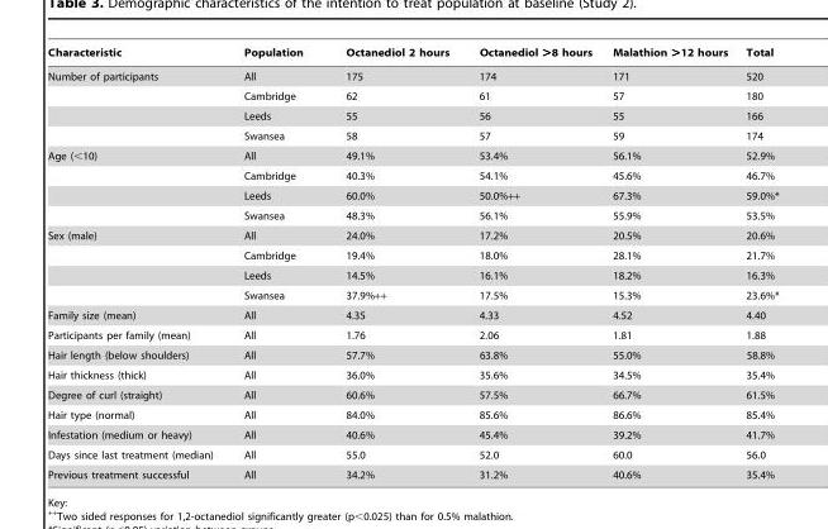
<table><thead><tr><td>Characteristic</td><td>Population</td><td>Octanediol 2 hours</td><td>Octanediol &gt;8 hours</td><td>Malathion &gt;12 hours</td><td>Total</td></tr></thead><tbody><tr><td rowspan="4">Number of participants</td><td>All</td><td>175</td><td>174</td><td>171</td><td>520</td></tr><tr><td>Cambridge</td><td>62</td><td>61</td><td>57</td><td>180</td></tr><tr><td>Leeds</td><td>55</td><td>56</td><td>55</td><td>166</td></tr><tr><td>Swansea</td><td>58</td><td>57</td><td>59</td><td>174</td></tr><tr><td rowspan="4">Age (&lt;10)</td><td>All</td><td>49.1%</td><td>53.4%</td><td>56.1%</td><td>52.9%</td></tr><tr><td>Cambridge</td><td>40.3%</td><td>54.1%</td><td>45.6%</td><td>46.7%</td></tr><tr><td>Leeds</td><td>60.0%</td><td>50.0%++</td><td>67.3%</td><td>59.0%*</td></tr><tr><td>Swansea</td><td>48.3%</td><td>56.1%</td><td>55.9%</td><td>53.5%</td></tr><tr><td rowspan="4">Sex (male)</td><td>All</td><td>24.0%</td><td>17.2%</td><td>20.5%</td><td>20.6%</td></tr><tr><td>Cambridge</td><td>19.4%</td><td>18.0%</td><td>28.1%</td><td>21.7%</td></tr><tr><td>Leeds</td><td>14.5%</td><td>16.1%</td><td>18.2%</td><td>16.3%</td></tr><tr><td>Swansea</td><td>37.9%++</td><td>17.5%</td><td>15.3%</td><td>23.6%*</td></tr><tr><td>Family size (mean)</td><td>All</td><td>4.35</td><td>4.33</td><td>4.52</td><td>4.40</td></tr><tr><td>Participants per family (mean)</td><td>All</td><td>1.76</td><td>2.06</td><td>1.81</td><td>1.88</td></tr><tr><td>Hair length (below shoulders)</td><td>All</td><td>57.7%</td><td>63.8%</td><td>55.0%</td><td>58.8%</td></tr><tr><td>Hair thickness (thick)</td><td>All</td><td>36.0%</td><td>35.6%</td><td>34.5%</td><td>35.4%</td></tr><tr><td>Degree of curl (straight)</td><td>All</td><td>60.6%</td><td>57.5%</td><td>66.7%</td><td>61.5%</td></tr><tr><td>Hair type (normal)</td><td>All</td><td>84.0%</td><td>85.6%</td><td>86.6%</td><td>85.4%</td></tr><tr><td>Infestation (medium or heavy)</td><td>All</td><td>40.6%</td><td>45.4%</td><td>39.2%</td><td>41.7%</td></tr><tr><td>Days since last treatment (median)</td><td>All</td><td>55.0</td><td>52.0</td><td>60.0</td><td>56.0</td></tr><tr><td>Previous treatment successful</td><td>All</td><td>34.2%</td><td>31.2%</td><td>40.6%</td><td>35.4%</td></tr></tbody></table>